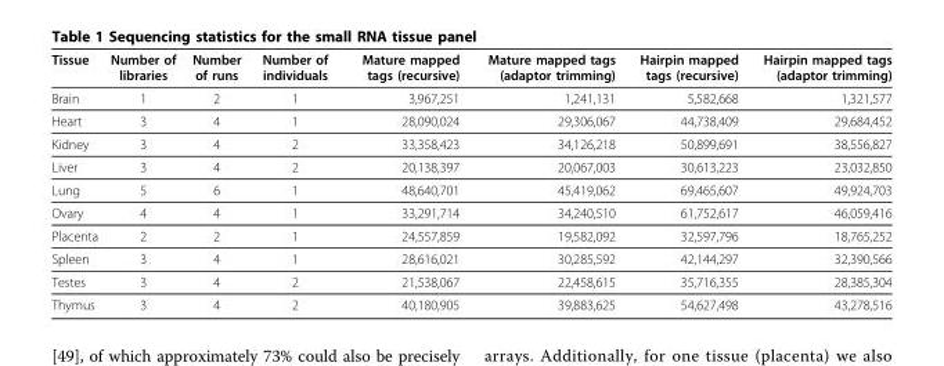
<table><thead><tr><td>Tissue</td><td>Number of libraries</td><td>Number of runs</td><td>Number of individuals</td><td>Mature mapped tags (recursive)</td><td>Mature mapped tags (adaptor trimming)</td><td>Hairpin mapped tags (recursive)</td><td>Hairpin mapped tags (adaptor trimming)</td></tr></thead><tbody><tr><td>Brain</td><td>1</td><td>2</td><td>1</td><td>3,967,251</td><td>1,241,131</td><td>5,582,668</td><td>1,321,577</td></tr><tr><td>Heart</td><td>3</td><td>4</td><td>1</td><td>28,090,024</td><td>29,306,067</td><td>44,738,409</td><td>29,684,452</td></tr><tr><td>Kidney</td><td>3</td><td>4</td><td>2</td><td>33,358,423</td><td>34,126,218</td><td>50,899,691</td><td>38,556,827</td></tr><tr><td>Liver</td><td>3</td><td>4</td><td>2</td><td>20,138,397</td><td>20,067,003</td><td>30,613,223</td><td>23,032,850</td></tr><tr><td>Lung</td><td>5</td><td>6</td><td>1</td><td>48,640,701</td><td>45,419,062</td><td>69,465,607</td><td>49,924,703</td></tr><tr><td>Ovary</td><td>4</td><td>4</td><td>1</td><td>33,291,714</td><td>34,240,510</td><td>61,752,617</td><td>46,059,416</td></tr><tr><td>Placenta</td><td>2</td><td>2</td><td>1</td><td>24,557,859</td><td>19,582,092</td><td>32,597,796</td><td>18,765,252</td></tr><tr><td>Spleen</td><td>3</td><td>4</td><td>1</td><td>28,616,021</td><td>30,285,592</td><td>42,144,297</td><td>32,390,566</td></tr><tr><td>Testes</td><td>3</td><td>4</td><td>2</td><td>21,538,067</td><td>22,458,615</td><td>35,716,355</td><td>28,385,304</td></tr><tr><td>Thymus</td><td>3</td><td>4</td><td>2</td><td>40,180,905</td><td>39,883,625</td><td>54,627,498</td><td>43,278,516</td></tr></tbody></table>